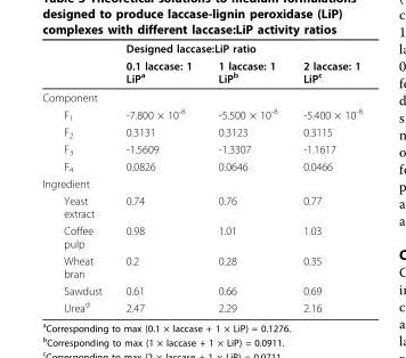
<table><thead><tr><td rowspan="2"></td><td colspan="3">Designed laccase:LiP ratio</td></tr><tr><td>0.1 laccase: 1 LiP<sup>a</sup></td><td>1 laccase: 1 LiP<sup>b</sup></td><td>2 laccase: 1 LiP<sup>c</sup></td></tr></thead><tbody><tr><td colspan="4">Component</td></tr><tr><td>F<sub>1</sub></td><td>-7.800 × 10<sup>-8</sup></td><td>-5.500 × 10<sup>-8</sup></td><td>-5.400 × 10<sup>-8</sup></td></tr><tr><td>F<sub>2</sub></td><td>0.3131</td><td>0.3123</td><td>0.3115</td></tr><tr><td>F<sub>3</sub></td><td>-1.5609</td><td>-1.3307</td><td>-1.1617</td></tr><tr><td>F<sub>4</sub></td><td>0.0826</td><td>0.0646</td><td>0.0466</td></tr><tr><td colspan="4">Ingredient</td></tr><tr><td>Yeast extract</td><td>0.74</td><td>0.76</td><td>0.77</td></tr><tr><td>Coffee pulp</td><td>0.98</td><td>1.01</td><td>1.03</td></tr><tr><td>Wheat bran</td><td>0.2</td><td>0.28</td><td>0.35</td></tr><tr><td>Sawdust</td><td>0.61</td><td>0.66</td><td>0.69</td></tr><tr><td>Urea<sup>d</sup></td><td>2.47</td><td>2.29</td><td>2.16</td></tr></tbody></table>